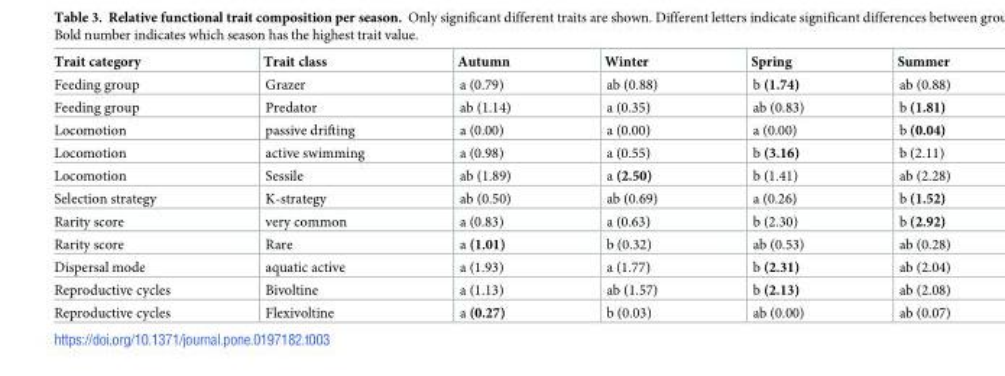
<table><thead><tr><td>Trait category</td><td>Trait class</td><td>Autumn</td><td>Winter</td><td>Spring</td><td>Summer</td></tr></thead><tbody><tr><td>Feeding group</td><td>Grazer</td><td>a (0.79)</td><td>ab (0.88)</td><td>b (1.74)</td><td>ab (0.88)</td></tr><tr><td>Feeding group</td><td>Predator</td><td>ab (1.14)</td><td>a (0.35)</td><td>ab (0.83)</td><td>b (1.81)</td></tr><tr><td>Locomotion</td><td>passive drifting</td><td>a (0.00)</td><td>a (0.00)</td><td>a (0.00)</td><td>b (0.04)</td></tr><tr><td>Locomotion</td><td>active swimming</td><td>a (0.98)</td><td>a (0.55)</td><td>b (3.16)</td><td>b (2.11)</td></tr><tr><td>Locomotion</td><td>Sessile</td><td>ab (1.89)</td><td>a (2.50)</td><td>b (1.41)</td><td>ab (2.28)</td></tr><tr><td>Selection strategy</td><td>K-strategy</td><td>ab (0.50)</td><td>ab (0.69)</td><td>a (0.26)</td><td>b (1.52)</td></tr><tr><td>Rarity score</td><td>very common</td><td>a (0.83)</td><td>a (0.63)</td><td>b (2.30)</td><td>b (2.92)</td></tr><tr><td>Rarity score</td><td>Rare</td><td>a (1.01)</td><td>b (0.32)</td><td>ab (0.53)</td><td>ab (0.28)</td></tr><tr><td>Dispersal mode</td><td>aquatic active</td><td>a (1.93)</td><td>a (1.77)</td><td>b (2.31)</td><td>ab (2.04)</td></tr><tr><td>Reproductive cycles</td><td>Bivoltine</td><td>a (1.13)</td><td>ab (1.57)</td><td>b (2.13)</td><td>ab (2.08)</td></tr><tr><td>Reproductive cycles</td><td>Flexivoltine</td><td>a (0.27)</td><td>b (0.03)</td><td>ab (0.00)</td><td>ab (0.07)</td></tr></tbody></table>